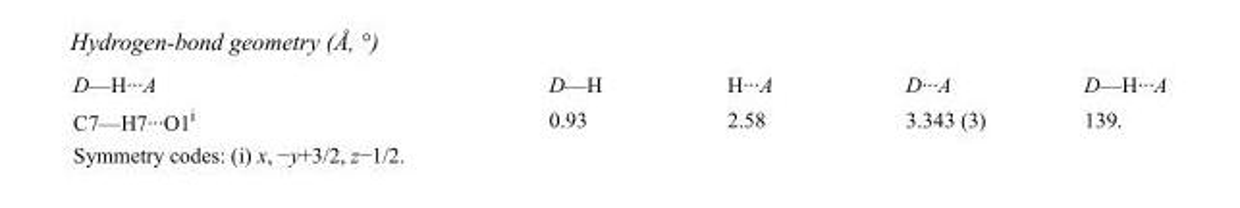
<table><tbody><tr><td>D—H···A</td><td>D—H</td><td>H···A</td><td>D···A</td><td>D—H···A</td></tr><tr><td>C7—H7···O1<sup>i</sup></td><td>0.93</td><td>2.58</td><td>3.343 (3)</td><td>139.</td></tr></tbody></table>